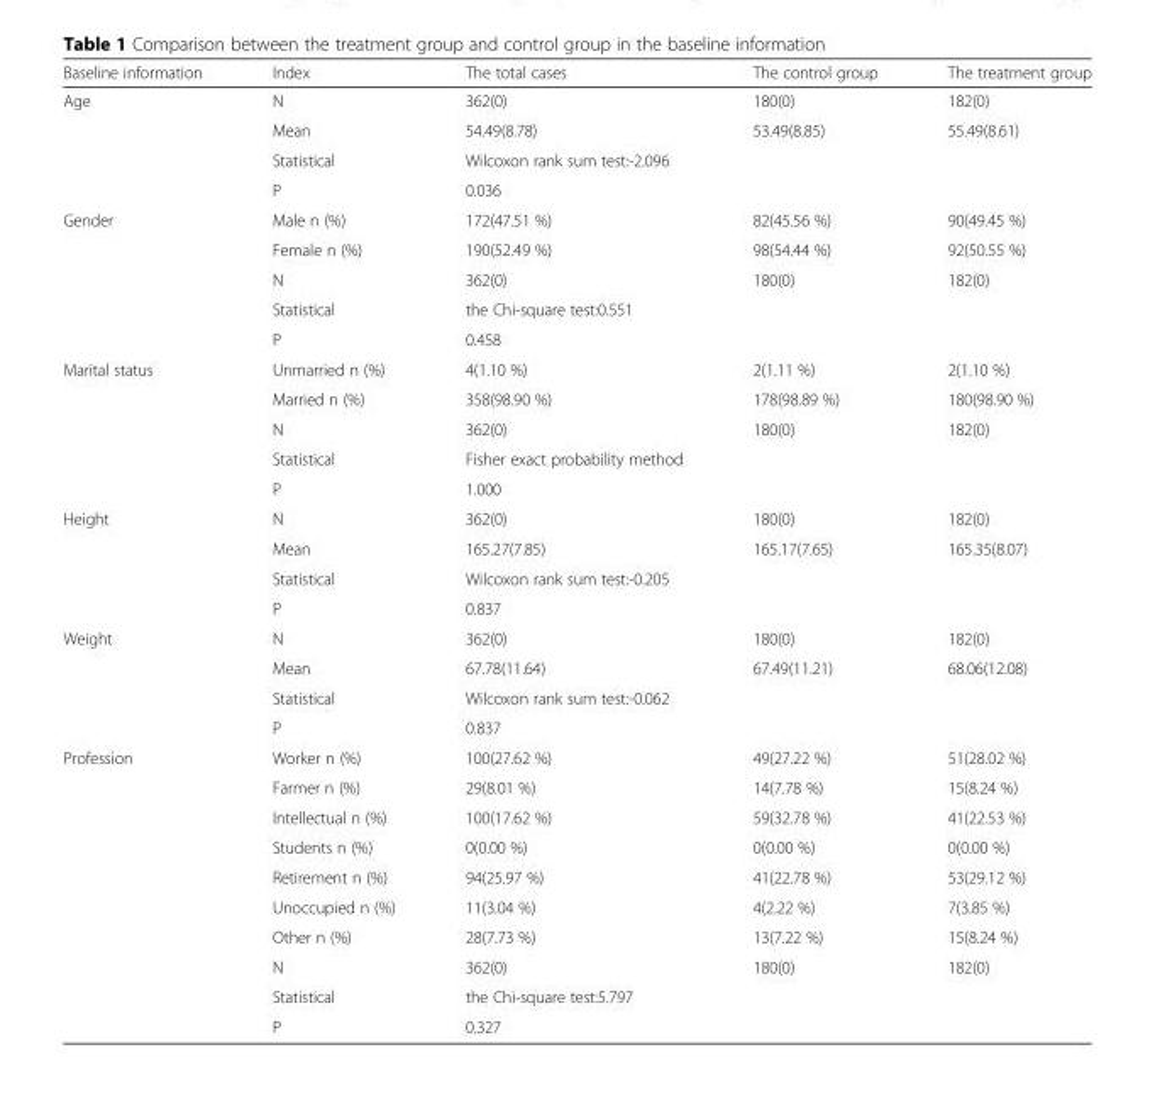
<table><thead><tr><td>Baseline information</td><td>Index</td><td>The total cases</td><td>The control group</td><td>The treatment group</td></tr></thead><tbody><tr><td rowspan="4">Age</td><td>N</td><td>362(0)</td><td>180(0)</td><td>182(0)</td></tr><tr><td>Mean</td><td>54.49(8.78)</td><td>53.49(8.85)</td><td>55.49(8.61)</td></tr><tr><td>Statistical</td><td>Wilcoxon rank sum test:-2.096</td><td></td><td></td></tr><tr><td>P</td><td>0.036</td><td></td><td></td></tr><tr><td rowspan="5">Gender</td><td>Male n (%)</td><td>172(47.51 %)</td><td>82(45.56 %)</td><td>90(49.45 %)</td></tr><tr><td>Female n (%)</td><td>190(52.49 %)</td><td>98(54.44 %)</td><td>92(50.55 %)</td></tr><tr><td>N</td><td>362(0)</td><td>180(0)</td><td>182(0)</td></tr><tr><td>Statistical</td><td>the Chi-square test:0.551</td><td></td><td></td></tr><tr><td>P</td><td>0.458</td><td></td><td></td></tr><tr><td rowspan="5">Marital status</td><td>Unmarried n (%)</td><td>4(1.10 %)</td><td>2(1.11 %)</td><td>2(1.10 %)</td></tr><tr><td>Married n (%)</td><td>358(98.90 %)</td><td>178(98.89 %)</td><td>180(98.90 %)</td></tr><tr><td>N</td><td>362(0)</td><td>180(0)</td><td>182(0)</td></tr><tr><td>Statistical</td><td>Fisher exact probability method</td><td></td><td></td></tr><tr><td>P</td><td>1.000</td><td></td><td></td></tr><tr><td rowspan="4">Height</td><td>N</td><td>362(0)</td><td>180(0)</td><td>182(0)</td></tr><tr><td>Mean</td><td>165.27(7.85)</td><td>165.17(7.65)</td><td>165.35(8.07)</td></tr><tr><td>Statistical</td><td>Wilcoxon rank sum test:-0.205</td><td></td><td></td></tr><tr><td>P</td><td>0.837</td><td></td><td></td></tr><tr><td rowspan="4">Weight</td><td>N</td><td>362(0)</td><td>180(0)</td><td>182(0)</td></tr><tr><td>Mean</td><td>67.78(11.64)</td><td>67.49(11.21)</td><td>68.06(12.08)</td></tr><tr><td>Statistical</td><td>Wilcoxon rank sum test:-0.062</td><td></td><td></td></tr><tr><td>P</td><td>0.837</td><td></td><td></td></tr><tr><td rowspan="10">Profession</td><td>Worker n (%)</td><td>100(27.62 %)</td><td>49(27.22 %)</td><td>51(28.02 %)</td></tr><tr><td>Farmer n (%)</td><td>29(8.01 %)</td><td>14(7.78 %)</td><td>15(8.24 %)</td></tr><tr><td>Intellectual n (%)</td><td>100(17.62 %)</td><td>59(32.78 %)</td><td>41(22.53 %)</td></tr><tr><td>Students n (%)</td><td>0(0.00 %)</td><td>0(0.00 %)</td><td>0(0.00 %)</td></tr><tr><td>Retirement n (%)</td><td>94(25.97 %)</td><td>41(22.78 %)</td><td>53(29.12 %)</td></tr><tr><td>Unoccupied n (%)</td><td>11(3.04 %)</td><td>4(2.22 %)</td><td>7(3.85 %)</td></tr><tr><td>Other n (%)</td><td>28(7.73 %)</td><td>13(7.22 %)</td><td>15(8.24 %)</td></tr><tr><td>N</td><td>362(0)</td><td>180(0)</td><td>182(0)</td></tr><tr><td>Statistical</td><td>the Chi-square test:5.797</td><td></td><td></td></tr><tr><td>P</td><td>0.327</td><td></td><td></td></tr></tbody></table>